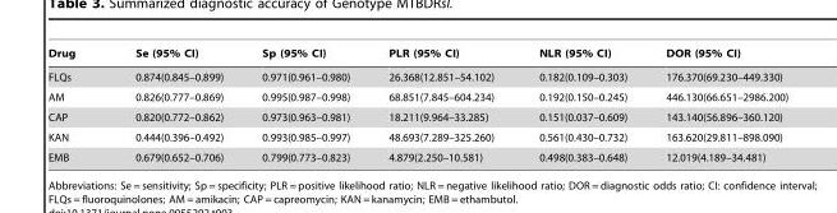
<table><thead><tr><td>Drug</td><td>Se (95% CI)</td><td>Sp (95% CI)</td><td>PLR (95% CI)</td><td>NLR (95% CI)</td><td>DOR (95% CI)</td></tr></thead><tbody><tr><td>FLQs</td><td>0.874(0.845–0.899)</td><td>0.971(0.961–0.980)</td><td>26.368(12.851–54.102)</td><td>0.182(0.109–0.303)</td><td>176.370(69.230–449.330)</td></tr><tr><td>AM</td><td>0.826(0.777–0.869)</td><td>0.995(0.987–0.998)</td><td>68.851(7.845–604.234)</td><td>0.192(0.150–0.245)</td><td>446.130(66.651–2986.200)</td></tr><tr><td>CAP</td><td>0.820(0.772–0.862)</td><td>0.973(0.963–0.981)</td><td>18.211(9.964–33.285)</td><td>0.151(0.037–0.609)</td><td>143.140(56.896–360.120)</td></tr><tr><td>KAN</td><td>0.444(0.396–0.492)</td><td>0.993(0.985–0.997)</td><td>48.693(7.289–325.260)</td><td>0.561(0.430–0.732)</td><td>163.620(29.811–898.090)</td></tr><tr><td>EMB</td><td>0.679(0.652–0.706)</td><td>0.799(0.773–0.823)</td><td>4.879(2.250–10.581)</td><td>0.498(0.383–0.648)</td><td>12.019(4.189–34.481)</td></tr></tbody></table>